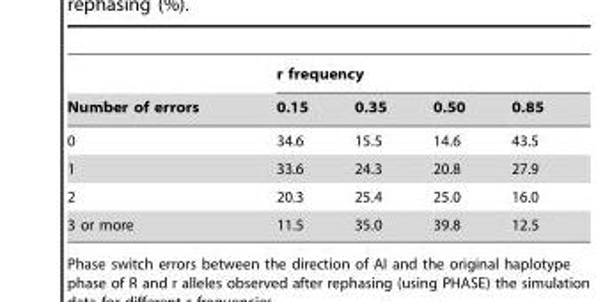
<table><thead><tr><td rowspan="2">Number of errors</td><td colspan="4">r frequency</td></tr><tr><td>0.15</td><td>0.35</td><td>0.50</td><td>0.85</td></tr></thead><tbody><tr><td>0</td><td>34.6</td><td>15.5</td><td>14.6</td><td>43.5</td></tr><tr><td>1</td><td>33.6</td><td>24.3</td><td>20.8</td><td>27.9</td></tr><tr><td>2</td><td>20.3</td><td>25.4</td><td>25.0</td><td>16.0</td></tr><tr><td>3 or more</td><td>11.5</td><td>35.0</td><td>39.8</td><td>12.5</td></tr></tbody></table>